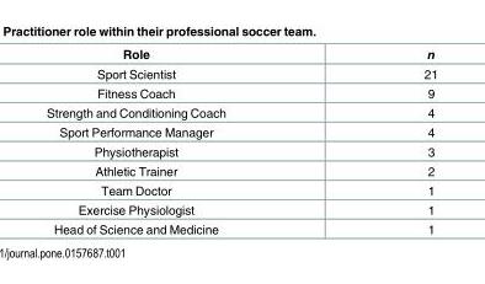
<table><thead><tr><td>Role</td><td>n</td></tr></thead><tbody><tr><td>Sport Scientist</td><td>21</td></tr><tr><td>Fitness Coach</td><td>9</td></tr><tr><td>Strength and Conditioning Coach</td><td>4</td></tr><tr><td>Sport Performance Manager</td><td>4</td></tr><tr><td>Physiotherapist</td><td>3</td></tr><tr><td>Athletic Trainer</td><td>2</td></tr><tr><td>Team Doctor</td><td>1</td></tr><tr><td>Exercise Physiologist</td><td>1</td></tr><tr><td>Head of Science and Medicine</td><td>1</td></tr></tbody></table>